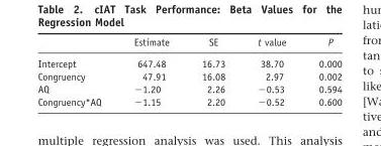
<table><thead><tr><td></td><td>Estimate</td><td>SE</td><td>t value</td><td>P</td></tr></thead><tbody><tr><td>Intercept</td><td>647.48</td><td>16.73</td><td>38.70</td><td>0.000</td></tr><tr><td>Congruency</td><td>47.91</td><td>16.08</td><td>2.97</td><td>0.002</td></tr><tr><td>AQ</td><td>−1.20</td><td>2.26</td><td>−0.53</td><td>0.594</td></tr><tr><td>Congruency*AQ</td><td>−1.15</td><td>2.20</td><td>−0.52</td><td>0.600</td></tr></tbody></table>